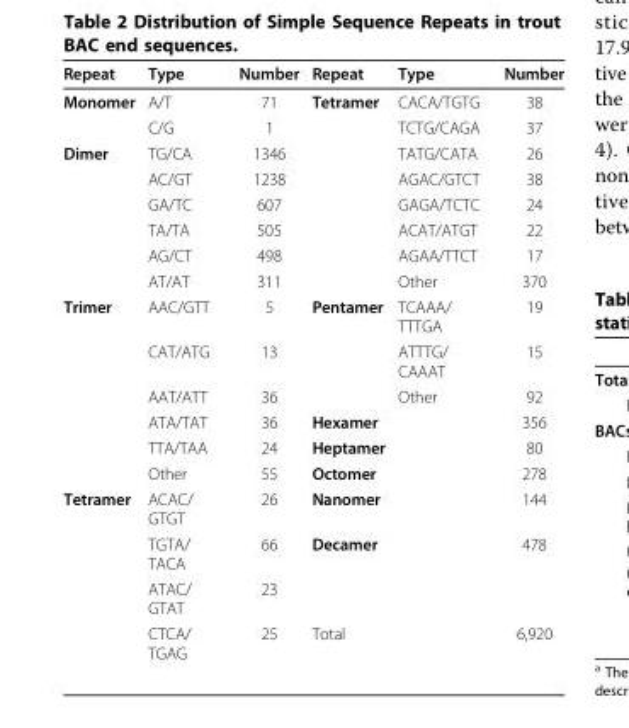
<table><thead><tr><td>Repeat</td><td>Type</td><td>Number</td><td>Repeat</td><td>Type</td><td>Number</td></tr></thead><tbody><tr><td rowspan="2">Monomer</td><td>A/T</td><td>71</td><td>Tetramer</td><td>CACA/TGTG</td><td>38</td></tr><tr><td>C/G</td><td>1</td><td></td><td>TCTG/CAGA</td><td>37</td></tr><tr><td rowspan="6">Dimer</td><td>TG/CA</td><td>1346</td><td></td><td>TATG/CATA</td><td>26</td></tr><tr><td>AC/GT</td><td>1238</td><td></td><td>AGAC/GTCT</td><td>38</td></tr><tr><td>GA/TC</td><td>607</td><td></td><td>GAGA/TCTC</td><td>24</td></tr><tr><td>TA/TA</td><td>505</td><td></td><td>ACAT/ATGT</td><td>22</td></tr><tr><td>AG/CT</td><td>498</td><td></td><td>AGAA/TTCT</td><td>17</td></tr><tr><td>AT/AT</td><td>311</td><td></td><td>Other</td><td>370</td></tr><tr><td rowspan="6">Trimer</td><td>AAC/GTT</td><td>5</td><td>Pentamer</td><td>TCAAA/ TTTGA</td><td>19</td></tr><tr><td>CAT/ATG</td><td>13</td><td></td><td>ATTTG/ CAAAT</td><td>15</td></tr><tr><td>AAT/ATT</td><td>36</td><td></td><td>Other</td><td>92</td></tr><tr><td>ATA/TAT</td><td>36</td><td>Hexamer</td><td></td><td>356</td></tr><tr><td>TTA/TAA</td><td>24</td><td>Heptamer</td><td></td><td>80</td></tr><tr><td>Other</td><td>55</td><td>Octomer</td><td></td><td>278</td></tr><tr><td rowspan="4">Tetramer</td><td>ACAC/ GTGT</td><td>26</td><td>Nanomer</td><td></td><td>144</td></tr><tr><td>TGTA/ TACA</td><td>66</td><td>Decamer</td><td></td><td>478</td></tr><tr><td>ATAC/ GTAT</td><td>23</td><td></td><td></td><td></td></tr><tr><td>CTCA/ TGAG</td><td>25</td><td>Total</td><td></td><td>6,920</td></tr></tbody></table>